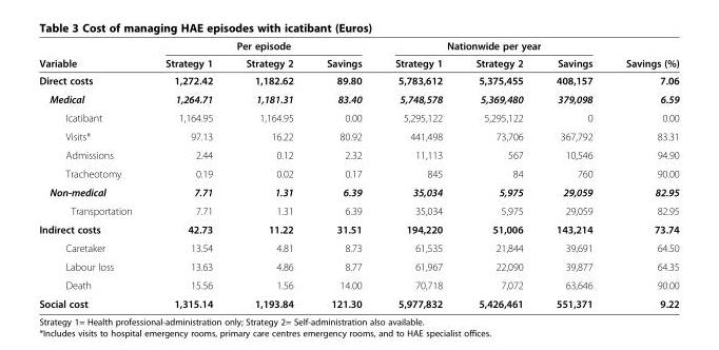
<table><thead><tr><td rowspan="2">Variable</td><td colspan="3">Per episode</td><td colspan="3">Nationwide per year</td><td rowspan="2">Savings (%)</td></tr><tr><td>Strategy 1</td><td>Strategy 2</td><td>Savings</td><td>Strategy 1</td><td>Strategy 2</td><td>Savings</td></tr></thead><tbody><tr><td>Direct costs</td><td>1,272.42</td><td>1,182.62</td><td>89.80</td><td>5,783,612</td><td>5,375,455</td><td>408,157</td><td>7.06</td></tr><tr><td>Medical</td><td>1,264.71</td><td>1,181.31</td><td>83.40</td><td>5,748,578</td><td>5,369,480</td><td>379,098</td><td>6.59</td></tr><tr><td>Icatibant</td><td>1,164.95</td><td>1,164.95</td><td>0.00</td><td>5,295,122</td><td>5,295,122</td><td>0</td><td>0.00</td></tr><tr><td>Visits*</td><td>97.13</td><td>16.22</td><td>80.92</td><td>441,498</td><td>73,706</td><td>367,792</td><td>83.31</td></tr><tr><td>Admissions</td><td>2.44</td><td>0.12</td><td>2.32</td><td>11,113</td><td>567</td><td>10,546</td><td>94.90</td></tr><tr><td>Tracheotomy</td><td>0.19</td><td>0.02</td><td>0.17</td><td>845</td><td>84</td><td>760</td><td>90.00</td></tr><tr><td>Non-medical</td><td>7.71</td><td>1.31</td><td>6.39</td><td>35,034</td><td>5,975</td><td>29,059</td><td>82.95</td></tr><tr><td>Transportation</td><td>7.71</td><td>1.31</td><td>6.39</td><td>35,034</td><td>5,975</td><td>29,059</td><td>82.95</td></tr><tr><td>Indirect costs</td><td>42.73</td><td>11.22</td><td>31.51</td><td>194,220</td><td>51,006</td><td>143,214</td><td>73.74</td></tr><tr><td>Caretaker</td><td>13.54</td><td>4.81</td><td>8.73</td><td>61,535</td><td>21,844</td><td>39,691</td><td>64.50</td></tr><tr><td>Labour loss</td><td>13.63</td><td>4.86</td><td>8.77</td><td>61,967</td><td>22,090</td><td>39,877</td><td>64.35</td></tr><tr><td>Death</td><td>15.56</td><td>1.56</td><td>14.00</td><td>70,718</td><td>7,072</td><td>63,646</td><td>90.00</td></tr><tr><td>Social cost</td><td>1,315.14</td><td>1,193.84</td><td>121.30</td><td>5,977,832</td><td>5,426,461</td><td>551,371</td><td>9.22</td></tr></tbody></table>